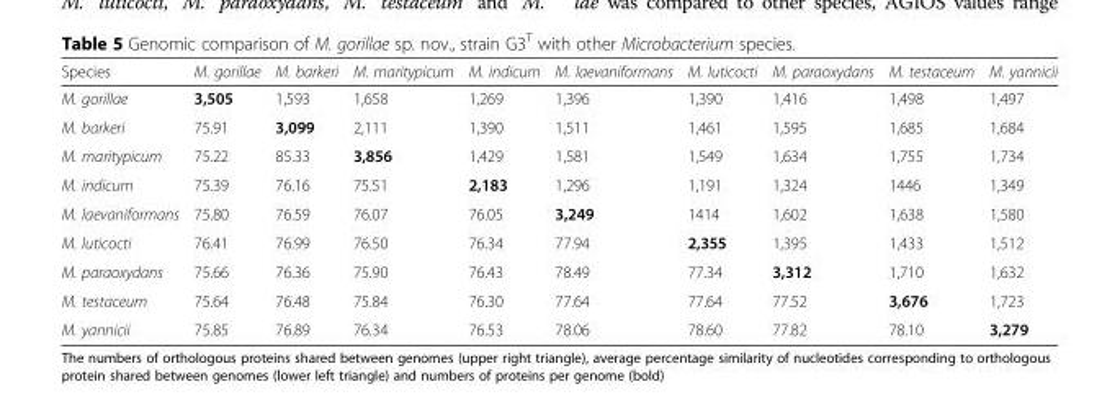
<table><thead><tr><td>Species</td><td>M. gorillae</td><td>M. barkeri</td><td>M. maritypicum</td><td>M. indicum</td><td>M. laevaniformans</td><td>M. luticocti</td><td>M. paraoxydans</td><td>M. testaceum</td><td>M. yannicii</td></tr></thead><tbody><tr><td>M. gorillae</td><td>3,505</td><td>1,593</td><td>1,658</td><td>1,269</td><td>1,396</td><td>1,390</td><td>1,416</td><td>1,498</td><td>1,497</td></tr><tr><td>M. barkeri</td><td>75.91</td><td>3,099</td><td>2,111</td><td>1,390</td><td>1,511</td><td>1,461</td><td>1,595</td><td>1,685</td><td>1,684</td></tr><tr><td>M. maritypicum</td><td>75.22</td><td>85.33</td><td>3,856</td><td>1,429</td><td>1,581</td><td>1,549</td><td>1,634</td><td>1,755</td><td>1,734</td></tr><tr><td>M. indicum</td><td>75.39</td><td>76.16</td><td>75.51</td><td>2,183</td><td>1,296</td><td>1,191</td><td>1,324</td><td>1446</td><td>1,349</td></tr><tr><td>M. laevaniformans</td><td>75.80</td><td>76.59</td><td>76.07</td><td>76.05</td><td>3,249</td><td>1414</td><td>1,602</td><td>1,638</td><td>1,580</td></tr><tr><td>M. luticocti</td><td>76.41</td><td>76.99</td><td>76.50</td><td>76.34</td><td>77.94</td><td>2,355</td><td>1,395</td><td>1,433</td><td>1,512</td></tr><tr><td>M. paraoxydans</td><td>75.66</td><td>76.36</td><td>75.90</td><td>76.43</td><td>78.49</td><td>77.34</td><td>3,312</td><td>1,710</td><td>1,632</td></tr><tr><td>M. testaceum</td><td>75.64</td><td>76.48</td><td>75.84</td><td>76.30</td><td>77.64</td><td>77.64</td><td>77.52</td><td>3,676</td><td>1,723</td></tr><tr><td>M. yannicii</td><td>75.85</td><td>76.89</td><td>76.34</td><td>76.53</td><td>78.06</td><td>78.60</td><td>77.82</td><td>78.10</td><td>3,279</td></tr></tbody></table>